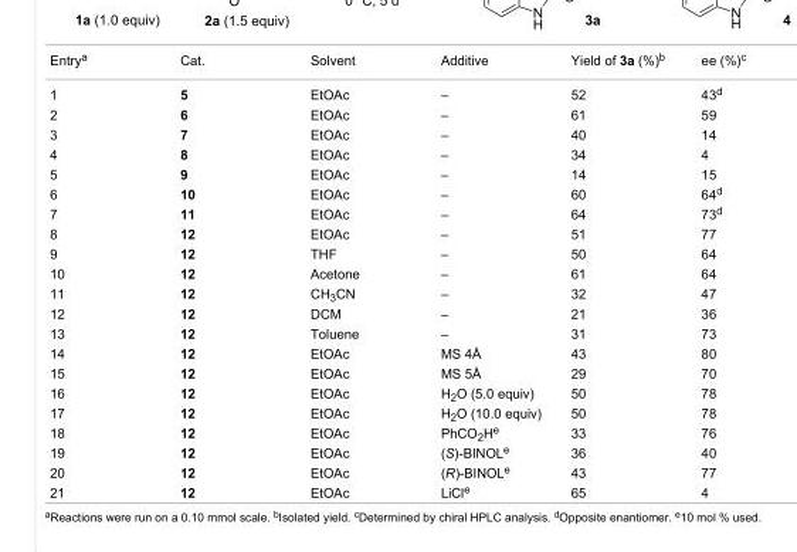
<table><tbody><tr><td>Entry<sup>a</sup></td><td>Cat.</td><td>Solvent</td><td>Additive</td><td>Yield of 3a (%)<sup>b</sup></td><td>ee (%)<sup>c</sup></td></tr><tr><td>1</td><td>5</td><td>EtOAc</td><td>–</td><td>52</td><td>43<sup>d</sup></td></tr><tr><td>2</td><td>6</td><td>EtOAc</td><td>–</td><td>61</td><td>59</td></tr><tr><td>3</td><td>7</td><td>EtOAc</td><td>–</td><td>40</td><td>14</td></tr><tr><td>4</td><td>8</td><td>EtOAc</td><td>–</td><td>34</td><td>4</td></tr><tr><td>5</td><td>9</td><td>EtOAc</td><td>–</td><td>14</td><td>15</td></tr><tr><td>6</td><td>10</td><td>EtOAc</td><td>–</td><td>60</td><td>64<sup>d</sup></td></tr><tr><td>7</td><td>11</td><td>EtOAc</td><td>–</td><td>64</td><td>73<sup>d</sup></td></tr><tr><td>8</td><td>12</td><td>EtOAc</td><td>–</td><td>51</td><td>77</td></tr><tr><td>9</td><td>12</td><td>THF</td><td>–</td><td>50</td><td>64</td></tr><tr><td>10</td><td>12</td><td>Acetone</td><td>–</td><td>61</td><td>64</td></tr><tr><td>11</td><td>12</td><td>CH<sub>3</sub>CN</td><td>–</td><td>32</td><td>47</td></tr><tr><td>12</td><td>12</td><td>DCM</td><td>–</td><td>21</td><td>36</td></tr><tr><td>13</td><td>12</td><td>Toluene</td><td>–</td><td>31</td><td>73</td></tr><tr><td>14</td><td>12</td><td>EtOAc</td><td>MS 4Å</td><td>43</td><td>80</td></tr><tr><td>15</td><td>12</td><td>EtOAc</td><td>MS 5Å</td><td>29</td><td>70</td></tr><tr><td>16</td><td>12</td><td>EtOAc</td><td>H<sub>2</sub>O (5.0 equiv)</td><td>50</td><td>78</td></tr><tr><td>17</td><td>12</td><td>EtOAc</td><td>H<sub>2</sub>O (10.0 equiv)</td><td>50</td><td>78</td></tr><tr><td>18</td><td>12</td><td>EtOAc</td><td>PhCO<sub>2</sub>H<sup>e</sup></td><td>33</td><td>76</td></tr><tr><td>19</td><td>12</td><td>EtOAc</td><td>(S)-BINOL<sup>e</sup></td><td>36</td><td>40</td></tr><tr><td>20</td><td>12</td><td>EtOAc</td><td>(R)-BINOL<sup>e</sup></td><td>43</td><td>77</td></tr><tr><td>21</td><td>12</td><td>EtOAc</td><td>LiCl<sup>e</sup></td><td>65</td><td>4</td></tr></tbody></table>